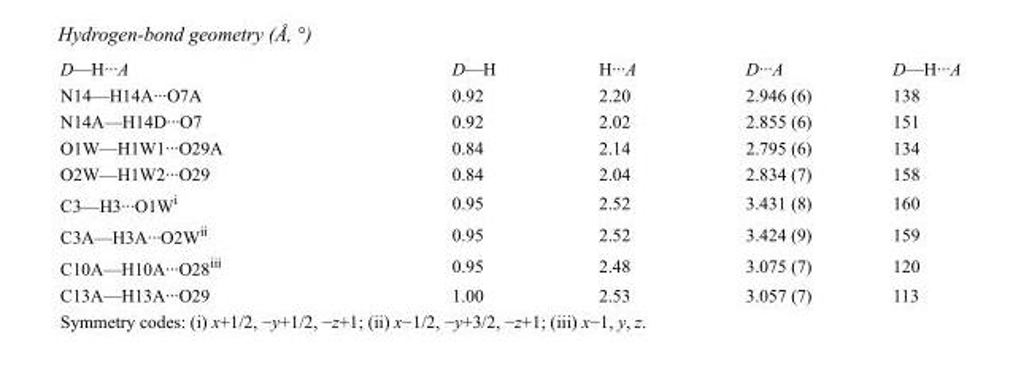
<table><tbody><tr><td>D—H···A</td><td>D—H</td><td>H···A</td><td>D···A</td><td>D—H···A</td></tr><tr><td>N14—H14A···O7A</td><td>0.92</td><td>2.20</td><td>2.946 (6)</td><td>138</td></tr><tr><td>N14A—H14D···O7</td><td>0.92</td><td>2.02</td><td>2.855 (6)</td><td>151</td></tr><tr><td>O1W—H1W1···O29A</td><td>0.84</td><td>2.14</td><td>2.795 (6)</td><td>134</td></tr><tr><td>O2W—H1W2···O29</td><td>0.84</td><td>2.04</td><td>2.834 (7)</td><td>158</td></tr><tr><td>C3—H3···O1W<sup>i</sup></td><td>0.95</td><td>2.52</td><td>3.431 (8)</td><td>160</td></tr><tr><td>C3A—H3A···O2W<sup>ii</sup></td><td>0.95</td><td>2.52</td><td>3.424 (9)</td><td>159</td></tr><tr><td>C10A—H10A···O28<sup>iii</sup></td><td>0.95</td><td>2.48</td><td>3.075 (7)</td><td>120</td></tr><tr><td>C13A—H13A···O29</td><td>1.00</td><td>2.53</td><td>3.057 (7)</td><td>113</td></tr></tbody></table>